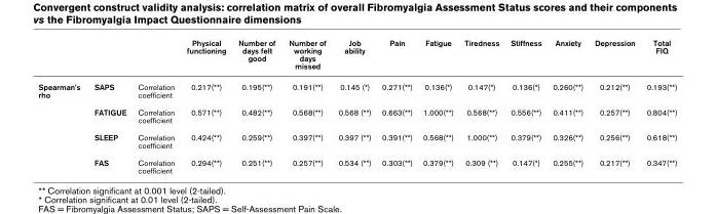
<table><thead><tr><td></td><td></td><td></td><td>Physical functioning</td><td>Number of days felt good</td><td>Number of working days missed</td><td>Job ability</td><td>Pain</td><td>Fatigue</td><td>Tiredness</td><td>Stiffness</td><td>Anxiety</td><td>Depression</td><td>Total FIQ</td></tr></thead><tbody><tr><td rowspan="4">Spearman&#x27;s rho</td><td>SAPS</td><td>Correlation coefficient</td><td>0.217(**)</td><td>0.195(**)</td><td>0.191(**)</td><td>0.145 (*)</td><td>0.271(**)</td><td>0.136(*)</td><td>0.147(*)</td><td>0.136(*)</td><td>0.260(**)</td><td>0.212(**)</td><td>0.193(**)</td></tr><tr><td>FATIGUE</td><td>Correlation coefficient</td><td>0.571(**)</td><td>0.482(**)</td><td>0.568(**)</td><td>0.568 (**)</td><td>0.663(**)</td><td>1.000(**)</td><td>0.568(**)</td><td>0.556(**)</td><td>0.411(**)</td><td>0.257(**)</td><td>0.804(**)</td></tr><tr><td>SLEEP</td><td>Correlation coefficient</td><td>0.424(**)</td><td>0.259(**)</td><td>0.397(**)</td><td>0.397 (**)</td><td>0.391(**)</td><td>0.568(**)</td><td>1.000(**)</td><td>0.379(**)</td><td>0.326(**)</td><td>0.256(**)</td><td>0.618(**)</td></tr><tr><td>FAS</td><td>Correlation coefficient</td><td>0.294(**)</td><td>0.251(**)</td><td>0.257(**)</td><td>0.534 (**)</td><td>0.303(**)</td><td>0.379(**)</td><td>0.309 (**)</td><td>0.147(*)</td><td>0.255(**)</td><td>0.217(**)</td><td>0.347(**)</td></tr></tbody></table>